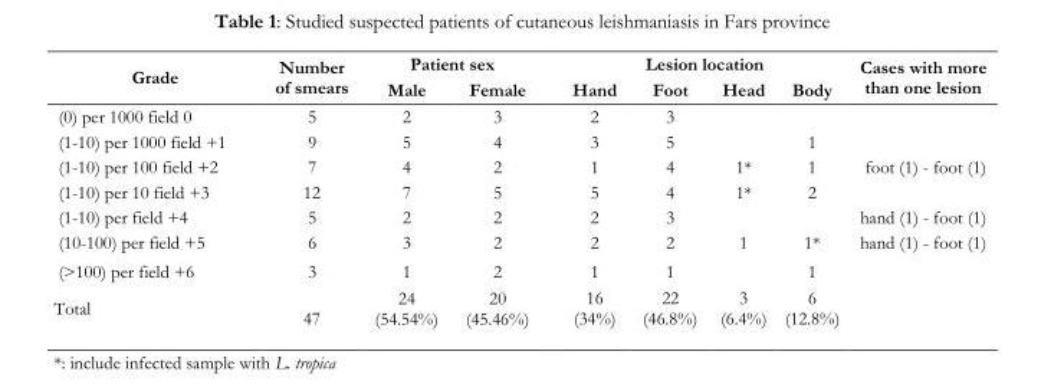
<table><thead><tr><td rowspan="2">Grade</td><td rowspan="2">Number of smears</td><td colspan="2">Patient sex</td><td colspan="4">Lesion location</td><td rowspan="2">Cases with more than one lesion</td></tr><tr><td>Male</td><td>Female</td><td>Hand</td><td>Foot</td><td>Head</td><td>Body</td></tr></thead><tbody><tr><td>(0) per 1000 field 0</td><td>5</td><td>2</td><td>3</td><td>2</td><td>3</td><td></td><td></td><td></td></tr><tr><td>(1-10) per 1000 field +1</td><td>9</td><td>5</td><td>4</td><td>3</td><td>5</td><td></td><td>1</td><td></td></tr><tr><td>(1-10) per 100 field +2</td><td>7</td><td>4</td><td>2</td><td>1</td><td>4</td><td>1*</td><td>1</td><td>foot (1) - foot (1)</td></tr><tr><td>(1-10) per 10 field +3</td><td>12</td><td>7</td><td>5</td><td>5</td><td>4</td><td>1*</td><td>2</td><td></td></tr><tr><td>(1-10) per field +4</td><td>5</td><td>2</td><td>2</td><td>2</td><td>3</td><td></td><td></td><td>hand (1) - foot (1)</td></tr><tr><td>(10-100) per field +5</td><td>6</td><td>3</td><td>2</td><td>2</td><td>2</td><td>1</td><td>1*</td><td>hand (1) - foot (1)</td></tr><tr><td>(&gt;100) per field +6</td><td>3</td><td>1</td><td>2</td><td>1</td><td>1</td><td></td><td>1</td><td></td></tr><tr><td>Total</td><td>47</td><td>24 (54.54%)</td><td>20 (45.46%)</td><td>16 (34%)</td><td>22 (46.8%)</td><td>3 (6.4%)</td><td>6 (12.8%)</td><td></td></tr></tbody></table>